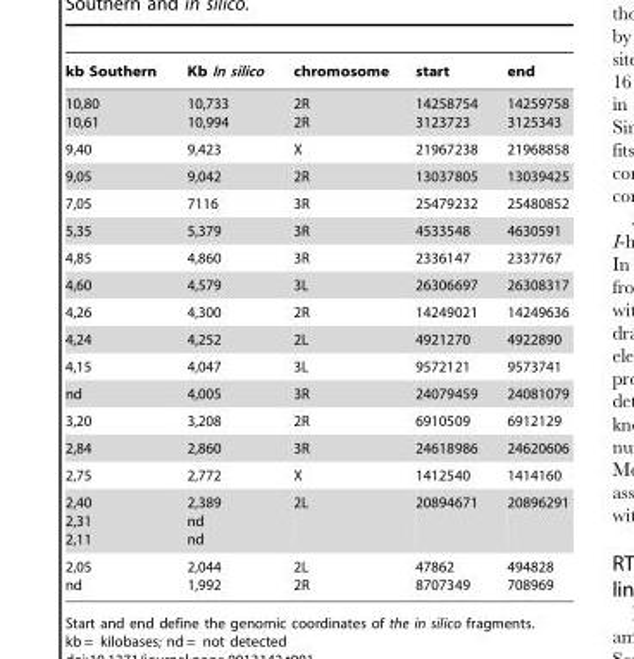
<table><thead><tr><td>kb Southern</td><td>Kb In silico</td><td>chromosome</td><td>start</td><td>end</td></tr></thead><tbody><tr><td>10,80 10,61</td><td>10,733 10,994</td><td>2R 2R</td><td>14258754 3123723</td><td>14259758 3125343</td></tr><tr><td>9,40</td><td>9,423</td><td>X</td><td>21967238</td><td>21968858</td></tr><tr><td>9,05</td><td>9,042</td><td>2R</td><td>13037805</td><td>13039425</td></tr><tr><td>7,05</td><td>7116</td><td>3R</td><td>25479232</td><td>25480852</td></tr><tr><td>5,35</td><td>5,379</td><td>3R</td><td>4533548</td><td>4630591</td></tr><tr><td>4,85</td><td>4,860</td><td>3R</td><td>2336147</td><td>2337767</td></tr><tr><td>4,60</td><td>4,579</td><td>3L</td><td>26306697</td><td>26308317</td></tr><tr><td>4,26</td><td>4,300</td><td>2R</td><td>14249021</td><td>14249636</td></tr><tr><td>4,24</td><td>4,252</td><td>2L</td><td>4921270</td><td>4922890</td></tr><tr><td>4,15</td><td>4,047</td><td>3L</td><td>9572121</td><td>9573741</td></tr><tr><td>nd</td><td>4,005</td><td>3R</td><td>24079459</td><td>24081079</td></tr><tr><td>3,20</td><td>3,208</td><td>2R</td><td>6910509</td><td>6912129</td></tr><tr><td>2,84</td><td>2,860</td><td>3R</td><td>24618986</td><td>24620606</td></tr><tr><td>2,75</td><td>2,772</td><td>X</td><td>1412540</td><td>1414160</td></tr><tr><td>2,40 2,31 2,11</td><td>2,389 nd nd</td><td>2L</td><td>20894671</td><td>20896291</td></tr><tr><td>2,05 nd</td><td>2,044 1,992</td><td>2L 2R</td><td>47862 8707349</td><td>494828 708969</td></tr></tbody></table>